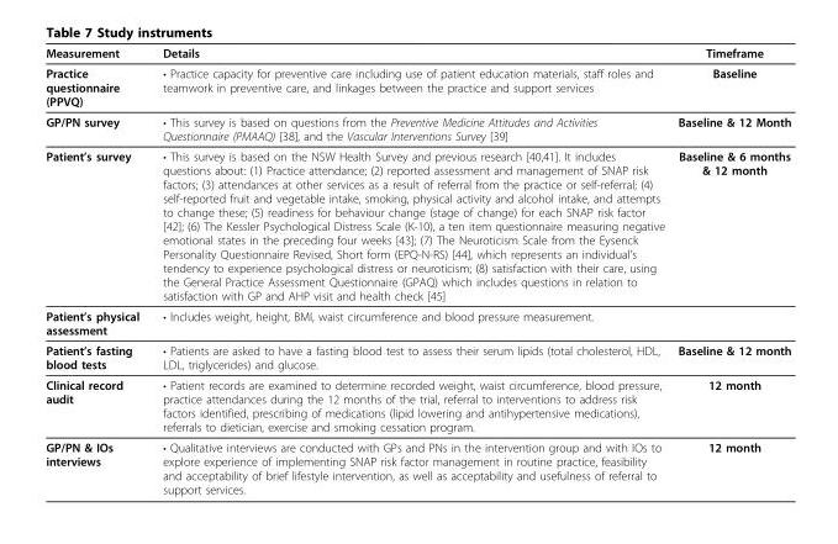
<table><thead><tr><td>Measurement</td><td>Details</td><td>Timeframe</td></tr></thead><tbody><tr><td>Practice questionnaire (PPVQ)</td><td>• Practice capacity for preventive care including use of patient education materials, staff roles and teamwork in preventive care, and linkages between the practice and support services</td><td>Baseline</td></tr><tr><td>GP/PN survey</td><td>• This survey is based on questions from the Preventive Medicine Attitudes and Activities Questionnaire (PMAAQ) [38], and the Vascular Interventions Survey [39]</td><td>Baseline &amp; 12 Month</td></tr><tr><td>Patient’s survey</td><td>• This survey is based on the NSW Health Survey and previous research [40,41]. It includes questions about: (1) Practice attendance; (2) reported assessment and management of SNAP risk factors; (3) attendances at other services as a result of referral from the practice or self-referral; (4) self-reported fruit and vegetable intake, smoking, physical activity and alcohol intake, and attempts to change these; (5) readiness for behaviour change (stage of change) for each SNAP risk factor [42]; (6) The Kessler Psychological Distress Scale (K-10), a ten item questionnaire measuring negative emotional states in the preceding four weeks [43]; (7) The Neuroticism Scale from the Eysenck Personality Questionnaire Revised, Short form (EPQ-N-RS) [44], which represents an individual’s tendency to experience psychological distress or neuroticism; (8) satisfaction with their care, using the General Practice Assessment Questionnaire (GPAQ) which includes questions in relation to satisfaction with GP and AHP visit and health check [45]</td><td>Baseline &amp; 6 months &amp; 12 month</td></tr><tr><td>Patient’s physical assessment</td><td>• Includes weight, height, BMI, waist circumference and blood pressure measurement.</td><td></td></tr><tr><td>Patient’s fasting blood tests</td><td>• Patients are asked to have a fasting blood test to assess their serum lipids (total cholesterol, HDL, LDL, triglycerides) and glucose.</td><td>Baseline &amp; 12 month</td></tr><tr><td>Clinical record audit</td><td>• Patient records are examined to determine recorded weight, waist circumference, blood pressure, practice attendances during the 12 months of the trial, referral to interventions to address risk factors identified, prescribing of medications (lipid lowering and antihypertensive medications), referrals to dietician, exercise and smoking cessation program.</td><td>12 month</td></tr><tr><td>GP/PN &amp; IOs interviews</td><td>• Qualitative interviews are conducted with GPs and PNs in the intervention group and with IOs to explore experience of implementing SNAP risk factor management in routine practice, feasibility and acceptability of brief lifestyle intervention, as well as acceptability and usefulness of referral to support services.</td><td>12 month</td></tr></tbody></table>